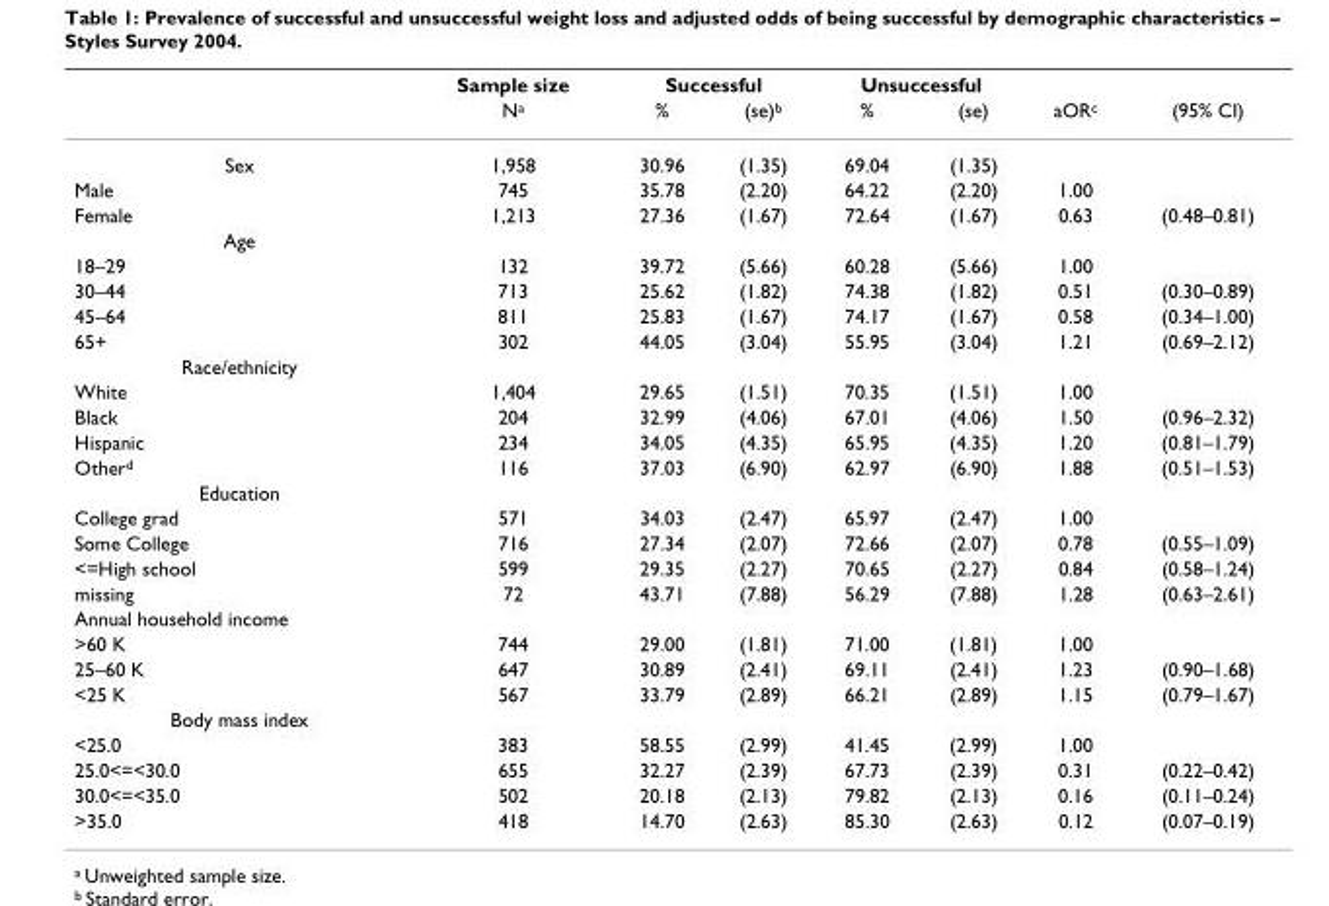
<table><thead><tr><td rowspan="2"></td><td rowspan="2">Sample size N<sup>a</sup></td><td colspan="2">Successful</td><td colspan="2">Unsuccessful</td><td rowspan="2">aOR<sup>c</sup></td><td rowspan="2">(95% CI)</td></tr><tr><td>%</td><td>(se)<sup>b</sup></td><td>%</td><td>(se)</td></tr></thead><tbody><tr><td>Sex</td><td>1,958</td><td>30.96</td><td>(1.35)</td><td>69.04</td><td>(1.35)</td><td></td><td></td></tr><tr><td>Male</td><td>745</td><td>35.78</td><td>(2.20)</td><td>64.22</td><td>(2.20)</td><td>1.00</td><td></td></tr><tr><td>Female</td><td>1,213</td><td>27.36</td><td>(1.67)</td><td>72.64</td><td>(1.67)</td><td>0.63</td><td>(0.48–0.81)</td></tr><tr><td colspan="8">Age</td></tr><tr><td>18–29</td><td>132</td><td>39.72</td><td>(5.66)</td><td>60.28</td><td>(5.66)</td><td>1.00</td><td></td></tr><tr><td>30–44</td><td>713</td><td>25.62</td><td>(1.82)</td><td>74.38</td><td>(1.82)</td><td>0.51</td><td>(0.30–0.89)</td></tr><tr><td>45–64</td><td>811</td><td>25.83</td><td>(1.67)</td><td>74.17</td><td>(1.67)</td><td>0.58</td><td>(0.34–1.00)</td></tr><tr><td>65+</td><td>302</td><td>44.05</td><td>(3.04)</td><td>55.95</td><td>(3.04)</td><td>1.21</td><td>(0.69–2.12)</td></tr><tr><td colspan="8">Race/ethnicity</td></tr><tr><td>White</td><td>1,404</td><td>29.65</td><td>(1.51)</td><td>70.35</td><td>(1.51)</td><td>1.00</td><td></td></tr><tr><td>Black</td><td>204</td><td>32.99</td><td>(4.06)</td><td>67.01</td><td>(4.06)</td><td>1.50</td><td>(0.96–2.32)</td></tr><tr><td>Hispanic</td><td>234</td><td>34.05</td><td>(4.35)</td><td>65.95</td><td>(4.35)</td><td>1.20</td><td>(0.81–1.79)</td></tr><tr><td>Other<sup>d</sup></td><td>116</td><td>37.03</td><td>(6.90)</td><td>62.97</td><td>(6.90)</td><td>1.88</td><td>(0.51–1.53)</td></tr><tr><td colspan="8">Education</td></tr><tr><td>College grad</td><td>571</td><td>34.03</td><td>(2.47)</td><td>65.97</td><td>(2.47)</td><td>1.00</td><td></td></tr><tr><td>Some College</td><td>716</td><td>27.34</td><td>(2.07)</td><td>72.66</td><td>(2.07)</td><td>0.78</td><td>(0.55–1.09)</td></tr><tr><td>&lt;=High school</td><td>599</td><td>29.35</td><td>(2.27)</td><td>70.65</td><td>(2.27)</td><td>0.84</td><td>(0.58–1.24)</td></tr><tr><td>missing</td><td>72</td><td>43.71</td><td>(7.88)</td><td>56.29</td><td>(7.88)</td><td>1.28</td><td>(0.63–2.61)</td></tr><tr><td colspan="8">Annual household income</td></tr><tr><td>&gt;60 K</td><td>744</td><td>29.00</td><td>(1.81)</td><td>71.00</td><td>(1.81)</td><td>1.00</td><td></td></tr><tr><td>25–60 K</td><td>647</td><td>30.89</td><td>(2.41)</td><td>69.11</td><td>(2.41)</td><td>1.23</td><td>(0.90–1.68)</td></tr><tr><td>&lt;25 K</td><td>567</td><td>33.79</td><td>(2.89)</td><td>66.21</td><td>(2.89)</td><td>1.15</td><td>(0.79–1.67)</td></tr><tr><td colspan="8">Body mass index</td></tr><tr><td>&lt;25.0</td><td>383</td><td>58.55</td><td>(2.99)</td><td>41.45</td><td>(2.99)</td><td>1.00</td><td></td></tr><tr><td>25.0&lt;=&lt;30.0</td><td>655</td><td>32.27</td><td>(2.39)</td><td>67.73</td><td>(2.39)</td><td>0.31</td><td>(0.22–0.42)</td></tr><tr><td>30.0&lt;=&lt;35.0</td><td>502</td><td>20.18</td><td>(2.13)</td><td>79.82</td><td>(2.13)</td><td>0.16</td><td>(0.11–0.24)</td></tr><tr><td>&gt;35.0</td><td>418</td><td>14.70</td><td>(2.63)</td><td>85.30</td><td>(2.63)</td><td>0.12</td><td>(0.07–0.19)</td></tr></tbody></table>